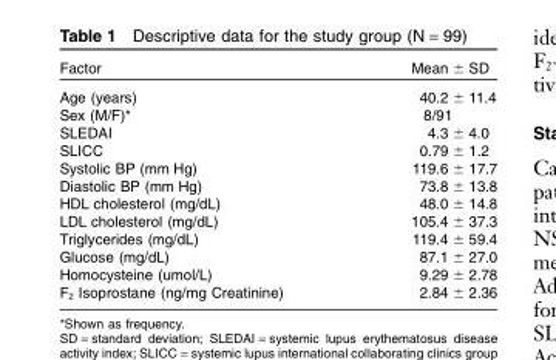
<table><thead><tr><td>Factor</td><td>Mean ± SD</td></tr></thead><tbody><tr><td>Age (years)</td><td>40.2 ± 11.4</td></tr><tr><td>Sex (M/F)*</td><td>8/91</td></tr><tr><td>SLEDAI</td><td>4.3 ± 4.0</td></tr><tr><td>SLICC</td><td>0.79 ± 1.2</td></tr><tr><td>Systolic BP (mm Hg)</td><td>119.6 ± 17.7</td></tr><tr><td>Diastolic BP (mm Hg)</td><td>73.8 ± 13.8</td></tr><tr><td>HDL cholesterol (mg/dL)</td><td>48.0 ± 14.8</td></tr><tr><td>LDL cholesterol (mg/dL)</td><td>105.4 ± 37.3</td></tr><tr><td>Triglycerides (mg/dL)</td><td>119.4 ± 59.4</td></tr><tr><td>Glucose (mg/dL)</td><td>87.1 ± 27.0</td></tr><tr><td>Homocysteine (umol/L)</td><td>9.29 ± 2.78</td></tr><tr><td>F<sub>2</sub> Isoprostane (ng/mg Creatinine)</td><td>2.84 ± 2.36</td></tr></tbody></table>